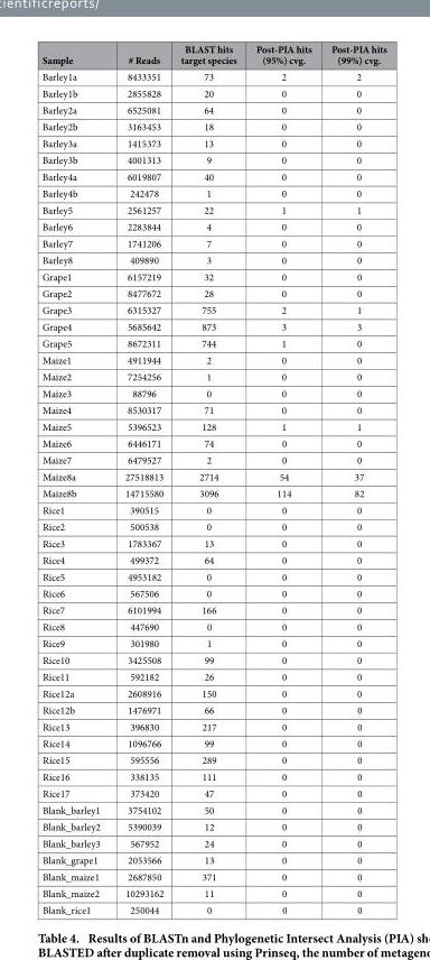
<table><thead><tr><td>Sample</td><td># Reads</td><td>BLAST hits target species</td><td>Post-PIA hits (95%) cvg.</td><td>Post-PIA hits (99%) cvg.</td></tr></thead><tbody><tr><td>Barley1a</td><td>8433351</td><td>73</td><td>2</td><td>2</td></tr><tr><td>Barley1b</td><td>2855828</td><td>20</td><td>0</td><td>0</td></tr><tr><td>Barley2a</td><td>6525081</td><td>64</td><td>0</td><td>0</td></tr><tr><td>Barley2b</td><td>3163453</td><td>18</td><td>0</td><td>0</td></tr><tr><td>Barley3a</td><td>1415373</td><td>13</td><td>0</td><td>0</td></tr><tr><td>Barley3b</td><td>4001313</td><td>9</td><td>0</td><td>0</td></tr><tr><td>Barley4a</td><td>6019807</td><td>40</td><td>0</td><td>0</td></tr><tr><td>Barley4b</td><td>242478</td><td>1</td><td>0</td><td>0</td></tr><tr><td>Barley5</td><td>2561257</td><td>22</td><td>1</td><td>1</td></tr><tr><td>Barley6</td><td>2283844</td><td>4</td><td>0</td><td>0</td></tr><tr><td>Barley7</td><td>1741206</td><td>7</td><td>0</td><td>0</td></tr><tr><td>Barley8</td><td>409890</td><td>3</td><td>0</td><td>0</td></tr><tr><td>Grape1</td><td>6157219</td><td>32</td><td>0</td><td>0</td></tr><tr><td>Grape2</td><td>8477672</td><td>28</td><td>0</td><td>0</td></tr><tr><td>Grape3</td><td>6315327</td><td>755</td><td>2</td><td>1</td></tr><tr><td>Grape4</td><td>5685642</td><td>873</td><td>3</td><td>3</td></tr><tr><td>Grape5</td><td>8672311</td><td>744</td><td>1</td><td>0</td></tr><tr><td>Maize1</td><td>4911944</td><td>2</td><td>0</td><td>0</td></tr><tr><td>Maize2</td><td>7254256</td><td>1</td><td>0</td><td>0</td></tr><tr><td>Maize3</td><td>88796</td><td>0</td><td>0</td><td>0</td></tr><tr><td>Maize4</td><td>8530317</td><td>71</td><td>0</td><td>0</td></tr><tr><td>Maize5</td><td>5396523</td><td>128</td><td>1</td><td>1</td></tr><tr><td>Maize6</td><td>6446171</td><td>74</td><td>0</td><td>0</td></tr><tr><td>Maize7</td><td>6479527</td><td>2</td><td>0</td><td>0</td></tr><tr><td>Maize8a</td><td>27518813</td><td>2714</td><td>54</td><td>37</td></tr><tr><td>Maize8b</td><td>14715580</td><td>3096</td><td>114</td><td>82</td></tr><tr><td>Rice1</td><td>390515</td><td>0</td><td>0</td><td>0</td></tr><tr><td>Rice2</td><td>500538</td><td>0</td><td>0</td><td>0</td></tr><tr><td>Rice3</td><td>1783367</td><td>13</td><td>0</td><td>0</td></tr><tr><td>Rice4</td><td>499372</td><td>64</td><td>0</td><td>0</td></tr><tr><td>Rice5</td><td>4953182</td><td>0</td><td>0</td><td>0</td></tr><tr><td>Rice6</td><td>567506</td><td>0</td><td>0</td><td>0</td></tr><tr><td>Rice7</td><td>6101994</td><td>166</td><td>0</td><td>0</td></tr><tr><td>Rice8</td><td>447690</td><td>0</td><td>0</td><td>0</td></tr><tr><td>Rice9</td><td>301980</td><td>1</td><td>0</td><td>0</td></tr><tr><td>Rice10</td><td>3425508</td><td>99</td><td>0</td><td>0</td></tr><tr><td>Rice11</td><td>592182</td><td>26</td><td>0</td><td>0</td></tr><tr><td>Rice12a</td><td>2608916</td><td>150</td><td>0</td><td>0</td></tr><tr><td>Rice12b</td><td>1476971</td><td>66</td><td>0</td><td>0</td></tr><tr><td>Rice13</td><td>396830</td><td>217</td><td>0</td><td>0</td></tr><tr><td>Rice14</td><td>1096766</td><td>99</td><td>0</td><td>0</td></tr><tr><td>Rice15</td><td>595556</td><td>289</td><td>0</td><td>0</td></tr><tr><td>Rice16</td><td>338135</td><td>111</td><td>0</td><td>0</td></tr><tr><td>Rice17</td><td>373420</td><td>47</td><td>0</td><td>0</td></tr><tr><td>Blank_barley1</td><td>3754102</td><td>50</td><td>0</td><td>0</td></tr><tr><td>Blank_barley2</td><td>5390039</td><td>12</td><td>0</td><td>0</td></tr><tr><td>Blank_barley3</td><td>567952</td><td>24</td><td>0</td><td>0</td></tr><tr><td>Blank_grape1</td><td>2053566</td><td>13</td><td>0</td><td>0</td></tr><tr><td>Blank_maize1</td><td>2687850</td><td>371</td><td>0</td><td>0</td></tr><tr><td>Blank_maize2</td><td>10293162</td><td>11</td><td>0</td><td>0</td></tr><tr><td>Blank_rice1</td><td>250044</td><td>0</td><td>0</td><td>0</td></tr></tbody></table>